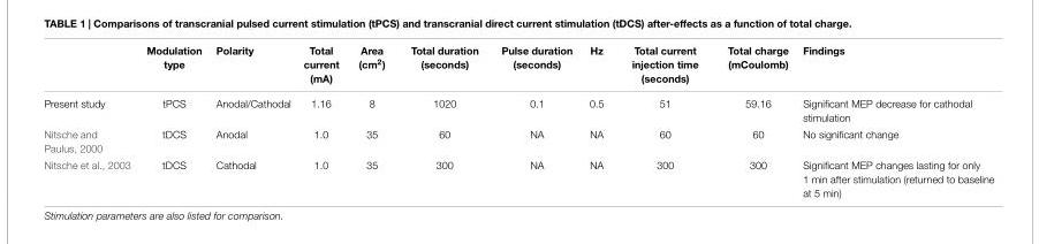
<table><thead><tr><td></td><td>Modulation type</td><td>Polarity</td><td>Total current (mA)</td><td>Area (cm<sup>2</sup>)</td><td>Total duration (seconds)</td><td>Pulse duration (seconds)</td><td>Hz</td><td>Total current injection time (seconds)</td><td>Total charge (mCoulomb)</td><td>Findings</td></tr></thead><tbody><tr><td>Present study</td><td>tPCS</td><td>Anodal/Cathodal</td><td>1.16</td><td>8</td><td>1020</td><td>0.1</td><td>0.5</td><td>51</td><td>59.16</td><td>Significant MEP decrease for cathodal stimulation</td></tr><tr><td>Nitsche and Paulus, 2000</td><td>tDCS</td><td>Anodal</td><td>1.0</td><td>35</td><td>60</td><td>NA</td><td>NA</td><td>60</td><td>60</td><td>No significant change</td></tr><tr><td>Nitsche et al., 2003</td><td>tDCS</td><td>Cathodal</td><td>1.0</td><td>35</td><td>300</td><td>NA</td><td>NA</td><td>300</td><td>300</td><td>Significant MEP changes lasting for only 1 min after stimulation (returned to baseline at 5 min)</td></tr></tbody></table>